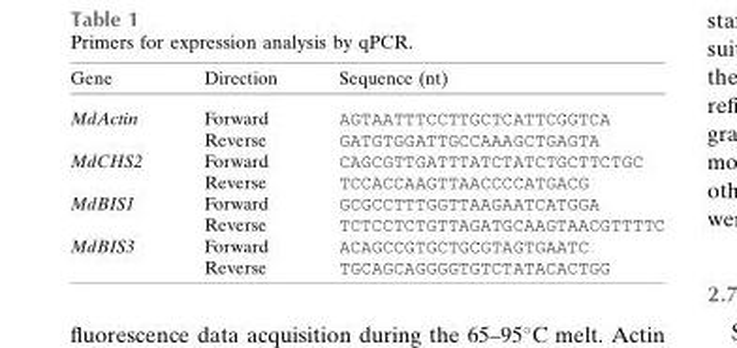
<table><thead><tr><td>Gene</td><td>Direction</td><td>Sequence (nt)</td></tr></thead><tbody><tr><td rowspan="2">MdActin</td><td>Forward</td><td>AGTAATTTCCTTGCTCATTCGGTCA</td></tr><tr><td>Reverse</td><td>GATGTGGATTGCCAAAGCTGAGTA</td></tr><tr><td rowspan="2">MdCHS2</td><td>Forward</td><td>CAGCGTTGATTTATCTATCTGCTTCTGC</td></tr><tr><td>Reverse</td><td>TCCACCAAGTTAACCCCATGACG</td></tr><tr><td rowspan="2">MdBIS1</td><td>Forward</td><td>GCGCCTTTGGTTAAGAATCATGGA</td></tr><tr><td>Reverse</td><td>TCTCCTCTGTTAGATGCAAGTAACGTTTTC</td></tr><tr><td rowspan="2">MdBIS3</td><td>Forward</td><td>ACAGCCGTGCTGCGTAGTGAATC</td></tr><tr><td>Reverse</td><td>TGCAGCAGGGGTGTCTATACACTGG</td></tr></tbody></table>